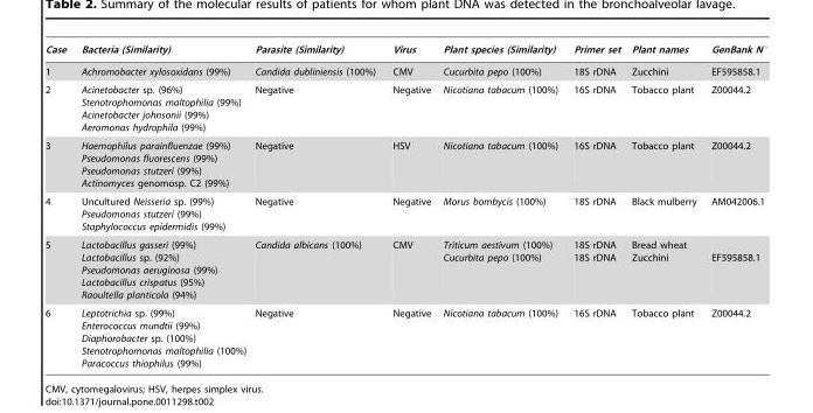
<table><thead><tr><td>Case</td><td>Bacteria (Similarity)</td><td>Parasite (Similarity)</td><td>Virus</td><td>Plant species (Similarity)</td><td>Primer set</td><td>Plant names</td><td>GenBank N°</td></tr></thead><tbody><tr><td>1</td><td>Achromobacter xylosoxidans (99%)</td><td>Candida dubliniensis (100%)</td><td>CMV</td><td>Cucurbita pepo (100%)</td><td>18S rDNA</td><td>Zucchini</td><td>EF595858.1</td></tr><tr><td>2</td><td>Acinetobacter sp. (96%) Stenotrophomonas maltophilia (99%) Acinetobacter johnsonii (99%) Aeromonas hydrophila (99%)</td><td>Negative</td><td>Negative</td><td>Nicotiana tabacum (100%)</td><td>16S rDNA</td><td>Tobacco plant</td><td>Z00044.2</td></tr><tr><td>3</td><td>Haemophilus parainfluenzae (99%) Pseudomonas fluorescens (99%) Pseudomonas stutzeri (99%) Actinomyces genomosp. C2 (99%)</td><td>Negative</td><td>HSV</td><td>Nicotiana tabacum (100%)</td><td>16S rDNA</td><td>Tobacco plant</td><td>Z00044.2</td></tr><tr><td>4</td><td>Uncultured Neisseria sp. (99%) Pseudomonas stutzeri (99%) Staphylococcus epidermidis (99%)</td><td>Negative</td><td>Negative</td><td>Morus bombycis (100%)</td><td>18S rDNA</td><td>Black mulberry</td><td>AM042006.1</td></tr><tr><td>5</td><td>Lactobacillus gasseri (99%) Lactobacillus sp. (92%) Pseudomonas aeruginosa (99%) Lactobacillus crispatus (95%) Raoultella planticola (94%)</td><td>Candida albicans (100%)</td><td>CMV</td><td>Triticum aestivum (100%) Cucurbita pepo (100%)</td><td>18S rDNA 18S rDNA</td><td>Bread wheat Zucchini</td><td>EF595858.1</td></tr><tr><td>6</td><td>Leptotrichia sp. (99%) Enterococcus mundtii (99%) Diaphorobacter sp. (100%) Stenotrophomonas maltophilia (100%) Paracoccus thiophilus (99%)</td><td>Negative</td><td>Negative</td><td>Nicotiana tabacum (100%)</td><td>16S rDNA</td><td>Tobacco plant</td><td>Z00044.2</td></tr></tbody></table>